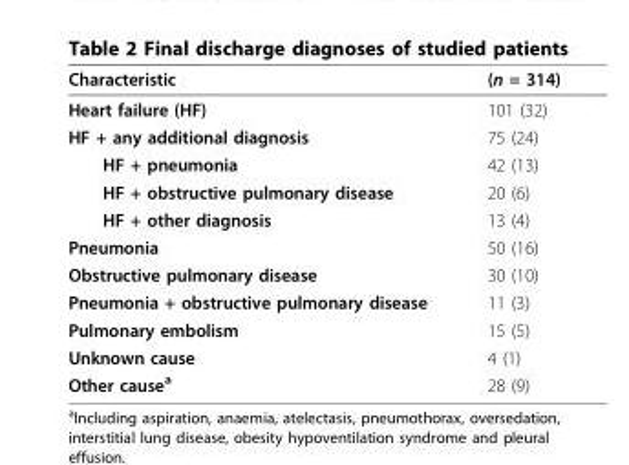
<table><thead><tr><td>Characteristic</td><td>(n = 314)</td></tr></thead><tbody><tr><td>Heart failure (HF)</td><td>101 (32)</td></tr><tr><td>HF + any additional diagnosis</td><td>75 (24)</td></tr><tr><td>HF + pneumonia</td><td>42 (13)</td></tr><tr><td>HF + obstructive pulmonary disease</td><td>20 (6)</td></tr><tr><td>HF + other diagnosis</td><td>13 (4)</td></tr><tr><td>Pneumonia</td><td>50 (16)</td></tr><tr><td>Obstructive pulmonary disease</td><td>30 (10)</td></tr><tr><td>Pneumonia + obstructive pulmonary disease</td><td>11 (3)</td></tr><tr><td>Pulmonary embolism</td><td>15 (5)</td></tr><tr><td>Unknown cause</td><td>4 (1)</td></tr><tr><td>Other cause<sup>a</sup></td><td>28 (9)</td></tr></tbody></table>